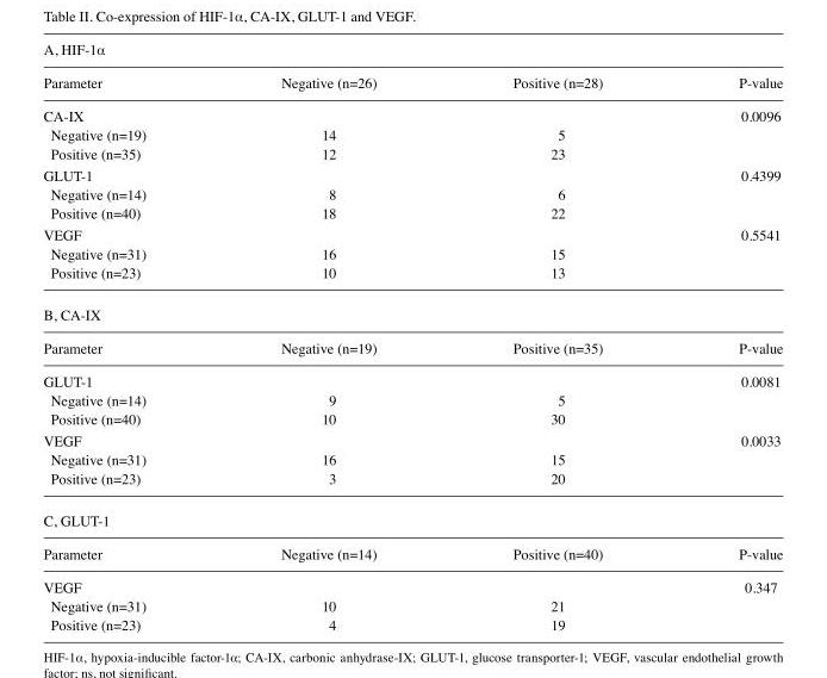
<table><thead><tr><td colspan="4">A, HIF-1α</td></tr><tr><td>Parameter</td><td>Negative (n=26)</td><td>Positive (n=28)</td><td>P-value</td></tr></thead><tbody><tr><td>CA-IX</td><td></td><td></td><td>0.0096</td></tr><tr><td>Negative (n=19)</td><td>14</td><td>5</td><td></td></tr><tr><td>Positive (n=35)</td><td>12</td><td>23</td><td></td></tr><tr><td>GLUT-1</td><td></td><td></td><td>0.4399</td></tr><tr><td>Negative (n=14)</td><td>8</td><td>6</td><td></td></tr><tr><td>Positive (n=40)</td><td>18</td><td>22</td><td></td></tr><tr><td>VEGF</td><td></td><td></td><td>0.5541</td></tr><tr><td>Negative (n=31)</td><td>16</td><td>15</td><td></td></tr><tr><td>Positive (n=23)</td><td>10</td><td>13</td><td></td></tr><tr><td colspan="4">B, CA-IX</td></tr><tr><td>Parameter</td><td>Negative (n=19)</td><td>Positive (n=35)</td><td>P-value</td></tr><tr><td>GLUT-1</td><td></td><td></td><td>0.0081</td></tr><tr><td>Negative (n=14)</td><td>9</td><td>5</td><td></td></tr><tr><td>Positive (n=40)</td><td>10</td><td>30</td><td></td></tr><tr><td>VEGF</td><td></td><td></td><td>0.0033</td></tr><tr><td>Negative (n=31)</td><td>16</td><td>15</td><td></td></tr><tr><td>Positive (n=23)</td><td>3</td><td>20</td><td></td></tr><tr><td colspan="4">C, GLUT-1</td></tr><tr><td>Parameter</td><td>Negative (n=14)</td><td>Positive (n=40)</td><td>P-value</td></tr><tr><td>VEGF</td><td></td><td></td><td>0.347</td></tr><tr><td>Negative (n=31)</td><td>10</td><td>21</td><td></td></tr><tr><td>Positive (n=23)</td><td>4</td><td>19</td><td></td></tr></tbody></table>